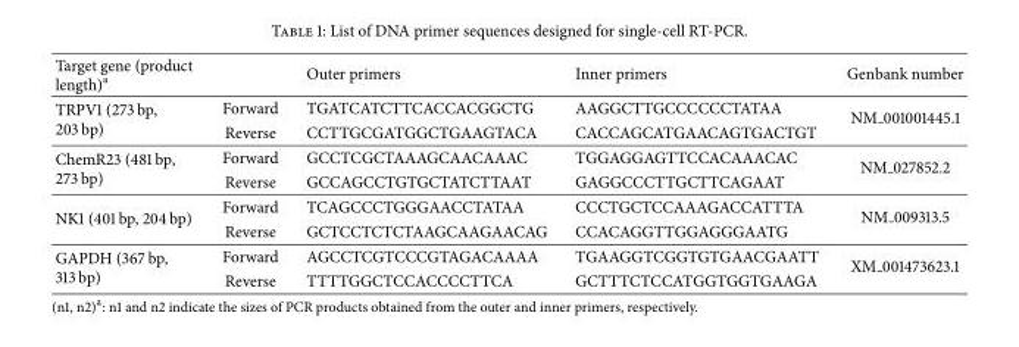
<table><tbody><tr><td>Target gene (product length)<sup>a</sup></td><td></td><td>Outer primers</td><td>Inner primers</td><td>Genbank number</td></tr><tr><td rowspan="2">TRPV1 (273 bp, 203 bp)</td><td>Forward</td><td>TGATCATCTTCACCACGGCTG</td><td>AAGGCTTGCCCCCCTATAA</td><td rowspan="2">NM 001001445.1</td></tr><tr><td>Reverse</td><td>CCTTGCGATGGCTGAAGTACA</td><td>CACCAGCATGAACAGTGACTGT</td></tr><tr><td rowspan="2">ChemR23 (481 bp, 273 bp)</td><td>Forward</td><td>GCCTCGCTAAAGCAACAAAC</td><td>TGGAGGAGTTCCACAAACAC</td><td rowspan="2">NM 027852.2</td></tr><tr><td>Reverse</td><td>GCCAGCCTGTGCTATCTTAAT</td><td>GAGGCCCTTGCTTCAGAAT</td></tr><tr><td rowspan="2">NK1 (401 bp, 204 bp)</td><td>Forward</td><td>TCAGCCCTGGGAACCTATAA</td><td>CCCTGCTCCAAAGACCATTTA</td><td rowspan="2">NM 009313.5</td></tr><tr><td>Reverse</td><td>GCTCCTCTCTAAGCAAGAACAG</td><td>CCACAGGTTGGAGGGAATG</td></tr><tr><td rowspan="2">GAPDH (367 bp, 313 bp)</td><td>Forward</td><td>AGCCTCGTCCCGTAGACAAAA</td><td>TGAAGGTCGGTGTGAACGAATT</td><td rowspan="2">XM 001473623.1</td></tr><tr><td>Reverse</td><td>TTTTGGCTCCACCCCTTCA</td><td>GCTTTCTCCATGGTGGTGAAGA</td></tr></tbody></table>